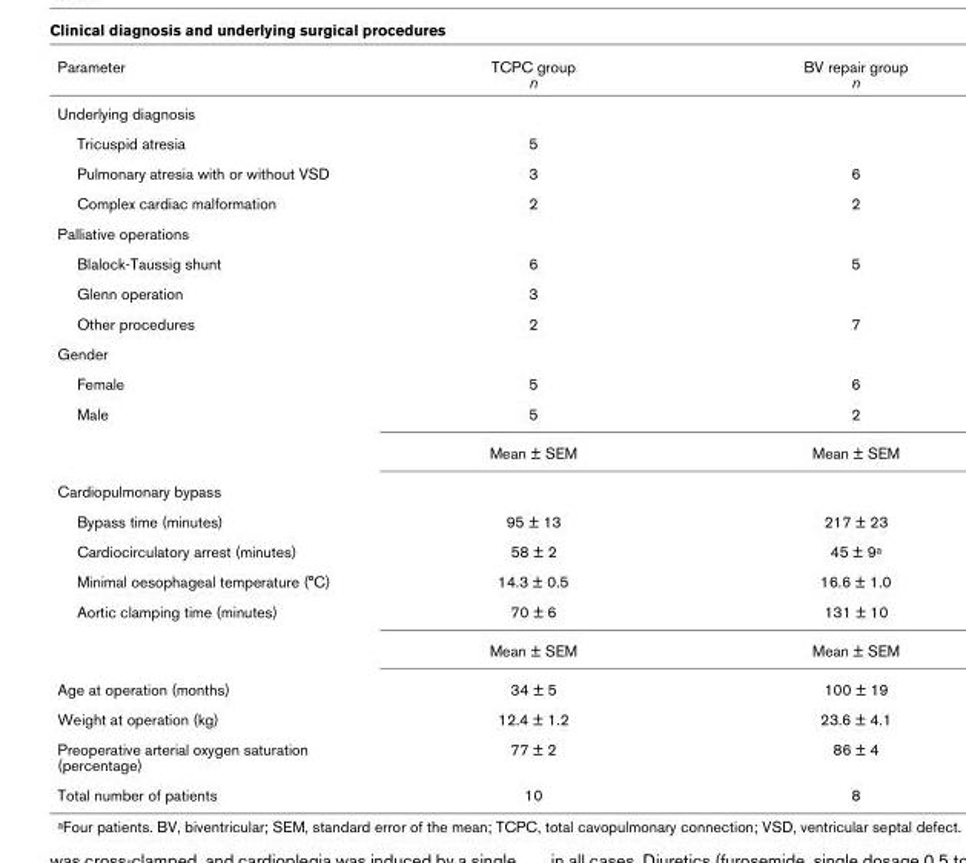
<table><thead><tr><td>Parameter</td><td>TCPC group n</td><td>BV repair group n</td></tr></thead><tbody><tr><td colspan="3">Underlying diagnosis</td></tr><tr><td>Tricuspid atresia</td><td>5</td><td></td></tr><tr><td>Pulmonary atresia with or without VSD</td><td>3</td><td>6</td></tr><tr><td>Complex cardiac malformation</td><td>2</td><td>2</td></tr><tr><td colspan="3">Palliative operations</td></tr><tr><td>Blalock-Taussig shunt</td><td>6</td><td>5</td></tr><tr><td>Glenn operation</td><td>3</td><td></td></tr><tr><td>Other procedures</td><td>2</td><td>7</td></tr><tr><td colspan="3">Gender</td></tr><tr><td>Female</td><td>5</td><td>6</td></tr><tr><td rowspan="2">Male</td><td>5</td><td>2</td></tr><tr><td>Mean ± SEM</td><td>Mean ± SEM</td></tr><tr><td colspan="3">Cardiopulmonary bypass</td></tr><tr><td>Bypass time (minutes)</td><td>95 ± 13</td><td>217 ± 23</td></tr><tr><td>Cardiocirculatory arrest (minutes)</td><td>58 ± 2</td><td>45 ± 9a</td></tr><tr><td>Minimal oesophageal temperature (°C)</td><td>14.3 ± 0.5</td><td>16.6 ± 1.0</td></tr><tr><td rowspan="2">Aortic clamping time (minutes)</td><td>70 ± 6</td><td>131 ± 10</td></tr><tr><td>Mean ± SEM</td><td>Mean ± SEM</td></tr><tr><td>Age at operation (months)</td><td>34 ± 5</td><td>100 ± 19</td></tr><tr><td>Weight at operation (kg)</td><td>12.4 ± 1.2</td><td>23.6 ± 4.1</td></tr><tr><td>Preoperative arterial oxygen saturation (percentage)</td><td>77 ± 2</td><td>86 ± 4</td></tr><tr><td>Total number of patients</td><td>10</td><td>8</td></tr></tbody></table>